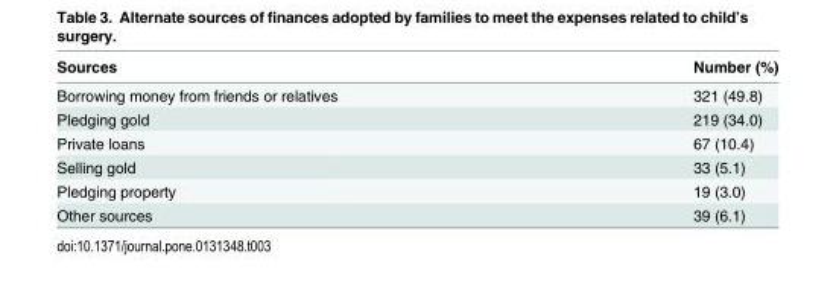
<table><thead><tr><td>Sources</td><td>Number (%)</td></tr></thead><tbody><tr><td>Borrowing money from friends or relatives</td><td>321 (49.8)</td></tr><tr><td>Pledging gold</td><td>219 (34.0)</td></tr><tr><td>Private loans</td><td>67 (10.4)</td></tr><tr><td>Selling gold</td><td>33 (5.1)</td></tr><tr><td>Pledging property</td><td>19 (3.0)</td></tr><tr><td>Other sources</td><td>39 (6.1)</td></tr></tbody></table>